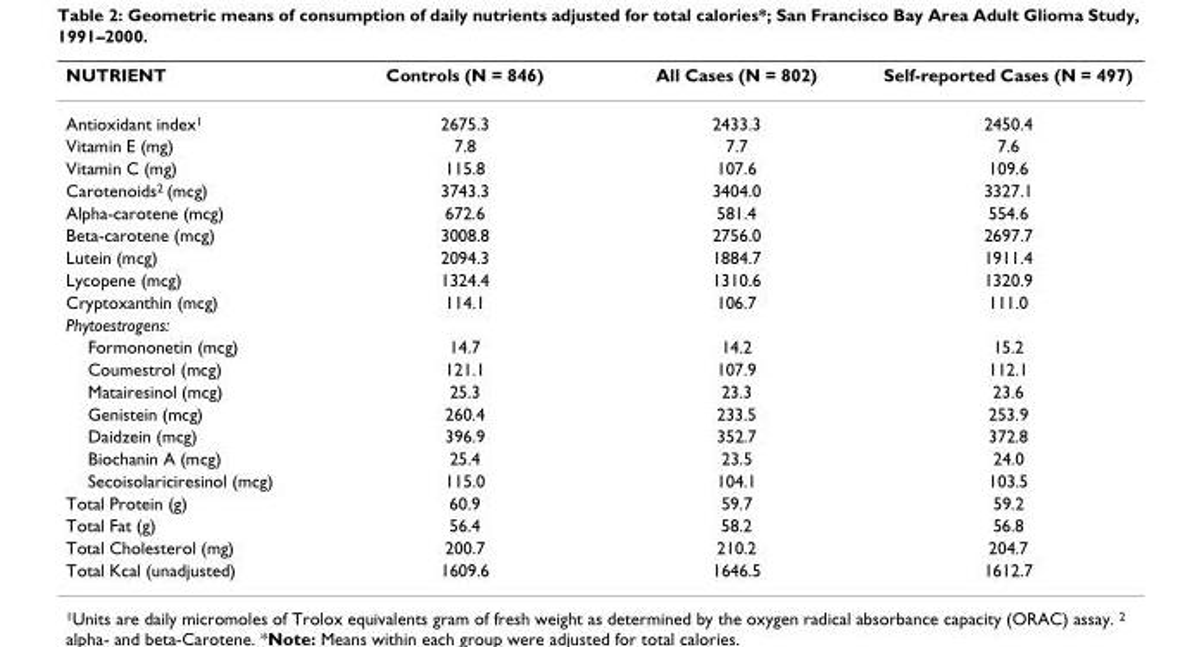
<table><thead><tr><td>NUTRIENT</td><td>Controls (N = 846)</td><td>All Cases (N = 802)</td><td>Self-reported Cases (N = 497)</td></tr></thead><tbody><tr><td>Antioxidant index1</td><td>2675.3</td><td>2433.3</td><td>2450.4</td></tr><tr><td>Vitamin E (mg)</td><td>7.8</td><td>7.7</td><td>7.6</td></tr><tr><td>Vitamin C (mg)</td><td>115.8</td><td>107.6</td><td>109.6</td></tr><tr><td>Carotenoids2 (mcg)</td><td>3743.3</td><td>3404.0</td><td>3327.1</td></tr><tr><td>Alpha-carotene (mcg)</td><td>672.6</td><td>581.4</td><td>554.6</td></tr><tr><td>Beta-carotene (mcg)</td><td>3008.8</td><td>2756.0</td><td>2697.7</td></tr><tr><td>Lutein (mcg)</td><td>2094.3</td><td>1884.7</td><td>1911.4</td></tr><tr><td>Lycopene (mcg)</td><td>1324.4</td><td>1310.6</td><td>1320.9</td></tr><tr><td>Cryptoxanthin (mcg)</td><td>114.1</td><td>106.7</td><td>111.0</td></tr><tr><td colspan="4">Phytoestrogens:</td></tr><tr><td>Formononetin (mcg)</td><td>14.7</td><td>14.2</td><td>15.2</td></tr><tr><td>Coumestrol (mcg)</td><td>121.1</td><td>107.9</td><td>112.1</td></tr><tr><td>Matairesinol (mcg)</td><td>25.3</td><td>23.3</td><td>23.6</td></tr><tr><td>Genistein (mcg)</td><td>260.4</td><td>233.5</td><td>253.9</td></tr><tr><td>Daidzein (mcg)</td><td>396.9</td><td>352.7</td><td>372.8</td></tr><tr><td>Biochanin A (mcg)</td><td>25.4</td><td>23.5</td><td>24.0</td></tr><tr><td>Secoisolariciresinol (mcg)</td><td>115.0</td><td>104.1</td><td>103.5</td></tr><tr><td>Total Protein (g)</td><td>60.9</td><td>59.7</td><td>59.2</td></tr><tr><td>Total Fat (g)</td><td>56.4</td><td>58.2</td><td>56.8</td></tr><tr><td>Total Cholesterol (mg)</td><td>200.7</td><td>210.2</td><td>204.7</td></tr><tr><td>Total Kcal (unadjusted)</td><td>1609.6</td><td>1646.5</td><td>1612.7</td></tr></tbody></table>